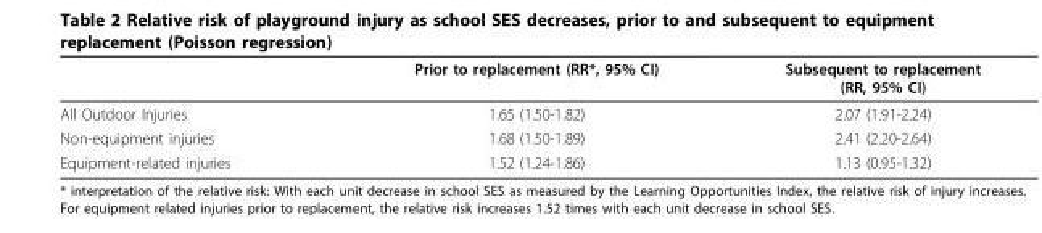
<table><thead><tr><td></td><td>Prior to replacement (RR*, 95% CI)</td><td>Subsequent to replacement (RR, 95% CI)</td></tr></thead><tbody><tr><td>All Outdoor Injuries</td><td>1.65 (1.50-1.82)</td><td>2.07 (1.91-2.24)</td></tr><tr><td>Non-equipment injuries</td><td>1.68 (1.50-1.89)</td><td>2.41 (2.20-2.64)</td></tr><tr><td>Equipment-related injuries</td><td>1.52 (1.24-1.86)</td><td>1.13 (0.95-1.32)</td></tr></tbody></table>